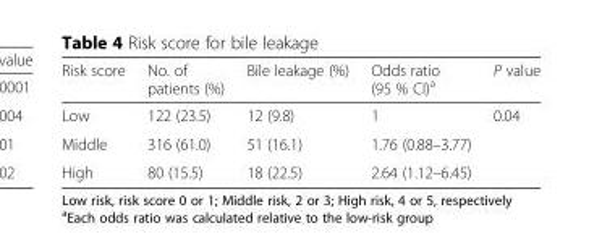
<table><thead><tr><td>Risk score</td><td>No. of patients (%)</td><td>Bile leakage (%)</td><td>Odds ratio (95 % CI)<sup>a</sup></td><td>P value</td></tr></thead><tbody><tr><td>Low</td><td>122 (23.5)</td><td>12 (9.8)</td><td>1</td><td rowspan="3">0.04</td></tr><tr><td>Middle</td><td>316 (61.0)</td><td>51 (16.1)</td><td>1.76 (0.88–3.77)</td></tr><tr><td>High</td><td>80 (15.5)</td><td>18 (22.5)</td><td>2.64 (1.12–6.45)</td></tr></tbody></table>